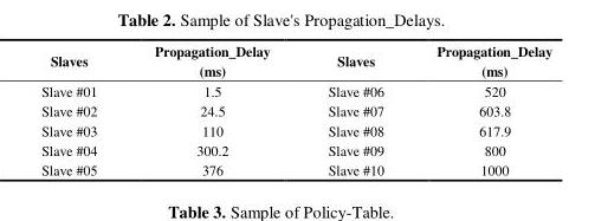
<table><thead><tr><td>Slaves</td><td>Propagation_Delay (ms)</td><td>Slaves</td><td>Propagation_Delay (ms)</td></tr></thead><tbody><tr><td>Slave #01</td><td>1.5</td><td>Slave #06</td><td>520</td></tr><tr><td>Slave #02</td><td>24.5</td><td>Slave #07</td><td>603.8</td></tr><tr><td>Slave #03</td><td>110</td><td>Slave #08</td><td>617.9</td></tr><tr><td>Slave #04</td><td>300.2</td><td>Slave #09</td><td>800</td></tr><tr><td>Slave #05</td><td>376</td><td>Slave #10</td><td>1000</td></tr></tbody></table>